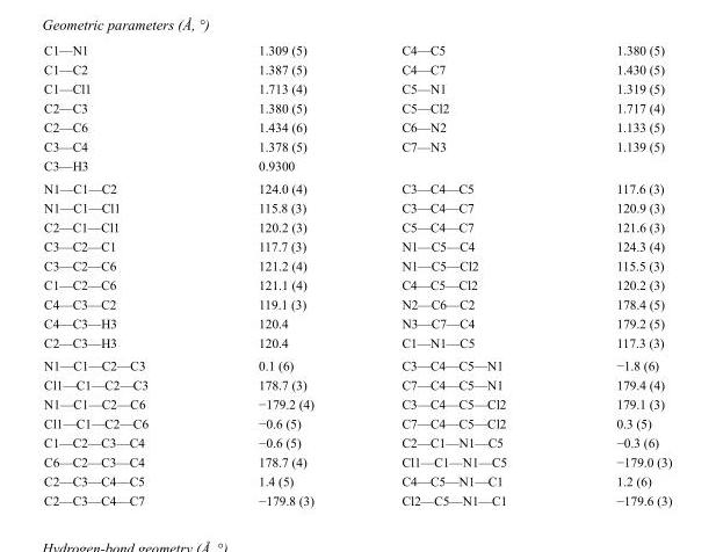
<table><tbody><tr><td>C1—N1</td><td>1.309 (5)</td><td>C4—C5</td><td>1.380 (5)</td></tr><tr><td>C1—C2</td><td>1.387 (5)</td><td>C4—C7</td><td>1.430 (5)</td></tr><tr><td>C1—Cl1</td><td>1.713 (4)</td><td>C5—N1</td><td>1.319 (5)</td></tr><tr><td>C2—C3</td><td>1.380 (5)</td><td>C5—Cl2</td><td>1.717 (4)</td></tr><tr><td>C2—C6</td><td>1.434 (6)</td><td>C6—N2</td><td>1.133 (5)</td></tr><tr><td>C3—C4</td><td>1.378 (5)</td><td>C7—N3</td><td>1.139 (5)</td></tr><tr><td>C3—H3</td><td>0.9300</td><td></td><td></td></tr><tr><td>N1—C1—C2</td><td>124.0 (4)</td><td>C3—C4—C5</td><td>117.6 (3)</td></tr><tr><td>N1—C1—Cl1</td><td>115.8 (3)</td><td>C3—C4—C7</td><td>120.9 (3)</td></tr><tr><td>C2—C1—Cl1</td><td>120.2 (3)</td><td>C5—C4—C7</td><td>121.6 (3)</td></tr><tr><td>C3—C2—C1</td><td>117.7 (3)</td><td>N1—C5—C4</td><td>124.3 (4)</td></tr><tr><td>C3—C2—C6</td><td>121.2 (4)</td><td>N1—C5—Cl2</td><td>115.5 (3)</td></tr><tr><td>C1—C2—C6</td><td>121.1 (4)</td><td>C4—C5—Cl2</td><td>120.2 (3)</td></tr><tr><td>C4—C3—C2</td><td>119.1 (3)</td><td>N2—C6—C2</td><td>178.4 (5)</td></tr><tr><td>C4—C3—H3</td><td>120.4</td><td>N3—C7—C4</td><td>179.2 (5)</td></tr><tr><td>C2—C3—H3</td><td>120.4</td><td>C1—N1—C5</td><td>117.3 (3)</td></tr><tr><td>N1—C1—C2—C3</td><td>0.1 (6)</td><td>C3—C4—C5—N1</td><td>−1.8 (6)</td></tr><tr><td>Cl1—C1—C2—C3</td><td>178.7 (3)</td><td>C7—C4—C5—N1</td><td>179.4 (4)</td></tr><tr><td>N1—C1—C2—C6</td><td>−179.2 (4)</td><td>C3—C4—C5—Cl2</td><td>179.1 (3)</td></tr><tr><td>Cl1—C1—C2—C6</td><td>−0.6 (5)</td><td>C7—C4—C5—Cl2</td><td>0.3 (5)</td></tr><tr><td>C1—C2—C3—C4</td><td>−0.6 (5)</td><td>C2—C1—N1—C5</td><td>−0.3 (6)</td></tr><tr><td>C6—C2—C3—C4</td><td>178.7 (4)</td><td>Cl1—C1—N1—C5</td><td>−179.0 (3)</td></tr><tr><td>C2—C3—C4—C5</td><td>1.4 (5)</td><td>C4—C5—N1—C1</td><td>1.2 (6)</td></tr><tr><td>C2—C3—C4—C7</td><td>−179.8 (3)</td><td>Cl2—C5—N1—C1</td><td>−179.6 (3)</td></tr></tbody></table>